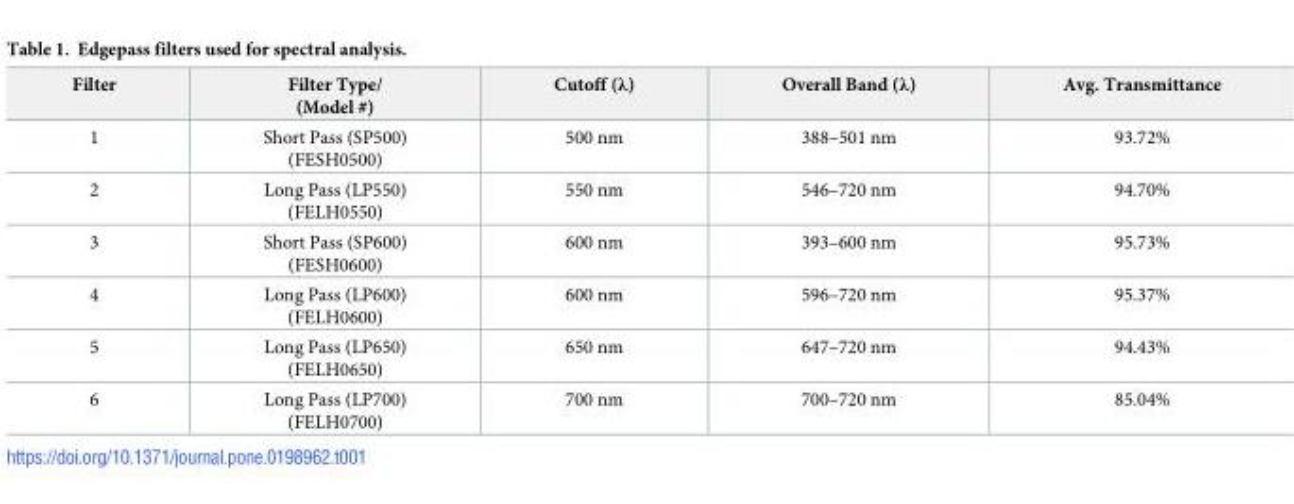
<table><thead><tr><td>Filter</td><td>Filter Type/ (Model #)</td><td>Cutoff (λ)</td><td>Overall Band (λ)</td><td>Avg. Transmittance</td></tr></thead><tbody><tr><td>1</td><td>Short Pass (SP500) (FESH0500)</td><td>500 nm</td><td>388–501 nm</td><td>93.72%</td></tr><tr><td>2</td><td>Long Pass (LP550) (FELH0550)</td><td>550 nm</td><td>546–720 nm</td><td>94.70%</td></tr><tr><td>3</td><td>Short Pass (SP600) (FESH0600)</td><td>600 nm</td><td>393–600 nm</td><td>95.73%</td></tr><tr><td>4</td><td>Long Pass (LP600) (FELH0600)</td><td>600 nm</td><td>596–720 nm</td><td>95.37%</td></tr><tr><td>5</td><td>Long Pass (LP650) (FELH0650)</td><td>650 nm</td><td>647–720 nm</td><td>94.43%</td></tr><tr><td>6</td><td>Long Pass (LP700) (FELH0700)</td><td>700 nm</td><td>700–720 nm</td><td>85.04%</td></tr></tbody></table>